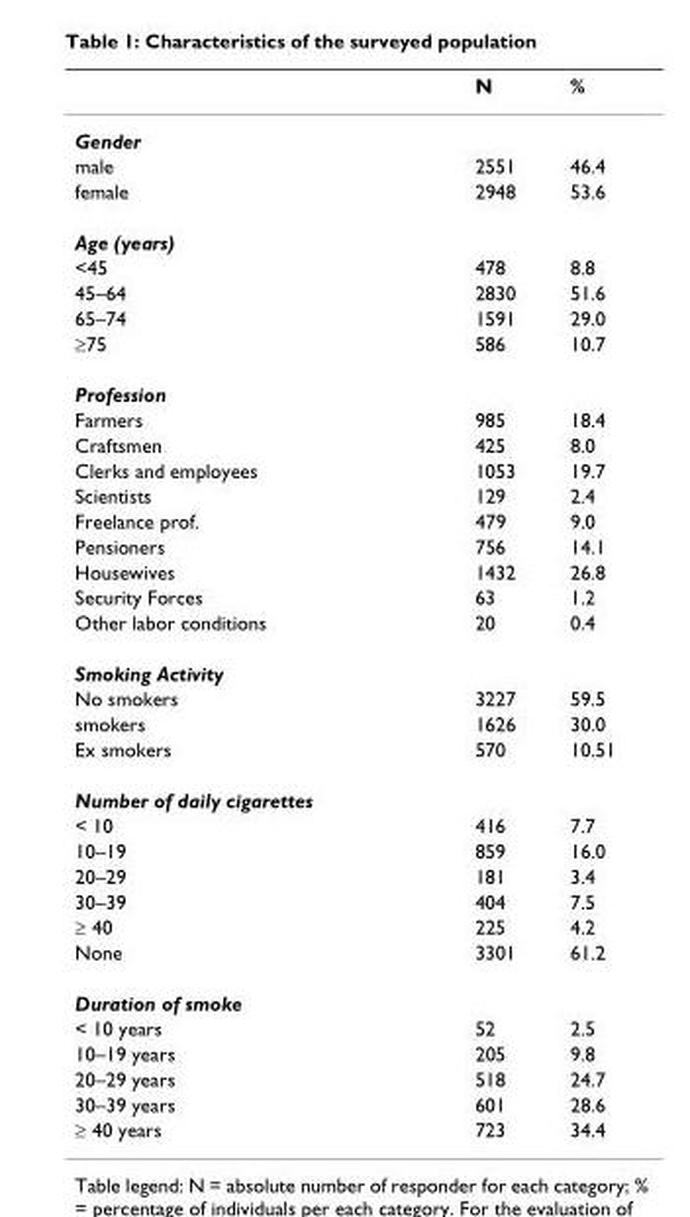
<table><thead><tr><td></td><td>N</td><td>%</td></tr></thead><tbody><tr><td colspan="3">Gender</td></tr><tr><td>male</td><td>2551</td><td>46.4</td></tr><tr><td>female</td><td>2948</td><td>53.6</td></tr><tr><td colspan="3">Age (years)</td></tr><tr><td>&lt;45</td><td>478</td><td>8.8</td></tr><tr><td>45–64</td><td>2830</td><td>51.6</td></tr><tr><td>65–74</td><td>1591</td><td>29.0</td></tr><tr><td>≥75</td><td>586</td><td>10.7</td></tr><tr><td colspan="3">Profession</td></tr><tr><td>Farmers</td><td>985</td><td>18.4</td></tr><tr><td>Craftsmen</td><td>425</td><td>8.0</td></tr><tr><td>Clerks and employees</td><td>1053</td><td>19.7</td></tr><tr><td>Scientists</td><td>129</td><td>2.4</td></tr><tr><td>Freelance prof.</td><td>479</td><td>9.0</td></tr><tr><td>Pensioners</td><td>756</td><td>14.1</td></tr><tr><td>Housewives</td><td>1432</td><td>26.8</td></tr><tr><td>Security Forces</td><td>63</td><td>1.2</td></tr><tr><td>Other labor conditions</td><td>20</td><td>0.4</td></tr><tr><td colspan="3">Smoking Activity</td></tr><tr><td>No smokers</td><td>3227</td><td>59.5</td></tr><tr><td>smokers</td><td>1626</td><td>30.0</td></tr><tr><td>Ex smokers</td><td>570</td><td>10.51</td></tr><tr><td colspan="3">Number of daily cigarettes</td></tr><tr><td>&lt; 10</td><td>416</td><td>7.7</td></tr><tr><td>10–19</td><td>859</td><td>16.0</td></tr><tr><td>20–29</td><td>181</td><td>3.4</td></tr><tr><td>30–39</td><td>404</td><td>7.5</td></tr><tr><td>≥ 40</td><td>225</td><td>4.2</td></tr><tr><td>None</td><td>3301</td><td>61.2</td></tr><tr><td colspan="3">Duration of smoke</td></tr><tr><td>&lt; 10 years</td><td>52</td><td>2.5</td></tr><tr><td>10–19 years</td><td>205</td><td>9.8</td></tr><tr><td>20–29 years</td><td>518</td><td>24.7</td></tr><tr><td>30–39 years</td><td>601</td><td>28.6</td></tr><tr><td>≥ 40 years</td><td>723</td><td>34.4</td></tr></tbody></table>